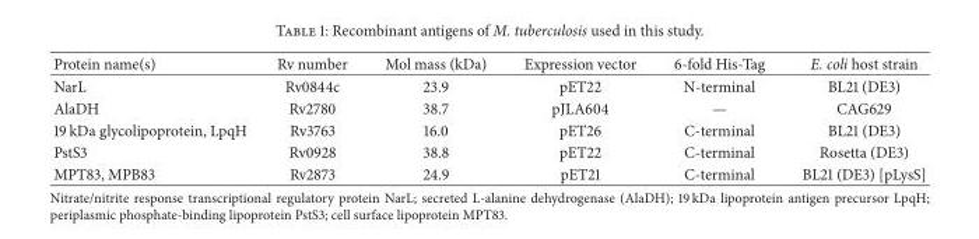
<table><thead><tr><td>Protein name(s)</td><td>Rv number</td><td>Mol mass (kDa)</td><td>Expression vector</td><td>6-fold His-Tag</td><td>E. coli host strain</td></tr></thead><tbody><tr><td>NarL</td><td>Rv0844c</td><td>23.9</td><td>pET22</td><td>N-terminal</td><td>BL21 (DE3)</td></tr><tr><td>AlaDH</td><td>Rv2780</td><td>38.7</td><td>pJLA604</td><td>—</td><td>CAG629</td></tr><tr><td>19 kDa glycolipoprotein, LpqH</td><td>Rv3763</td><td>16.0</td><td>pET26</td><td>C-terminal</td><td>BL21 (DE3)</td></tr><tr><td>PstS3</td><td>Rv0928</td><td>38.8</td><td>pET22</td><td>C-terminal</td><td>Rosetta (DE3)</td></tr><tr><td>MPT83, MPB83</td><td>Rv2873</td><td>24.9</td><td>pET21</td><td>C-terminal</td><td>BL21 (DE3) [pLysS]</td></tr></tbody></table>